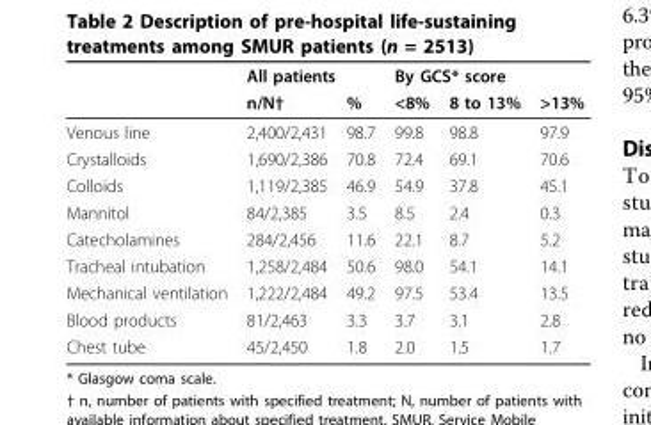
<table><thead><tr><td rowspan="2"></td><td colspan="2">All patients</td><td colspan="3">By GCS* score</td></tr><tr><td>n/N†</td><td>%</td><td>&lt;8%</td><td>8 to 13%</td><td>&gt;13%</td></tr></thead><tbody><tr><td>Venous line</td><td>2,400/2,431</td><td>98.7</td><td>99.8</td><td>98.8</td><td>97.9</td></tr><tr><td>Crystalloids</td><td>1,690/2,386</td><td>70.8</td><td>72.4</td><td>69.1</td><td>70.6</td></tr><tr><td>Colloids</td><td>1,119/2,385</td><td>46.9</td><td>54.9</td><td>37.8</td><td>45.1</td></tr><tr><td>Mannitol</td><td>84/2,385</td><td>3.5</td><td>8.5</td><td>2.4</td><td>0.3</td></tr><tr><td>Catecholamines</td><td>284/2,456</td><td>11.6</td><td>22.1</td><td>8.7</td><td>5.2</td></tr><tr><td>Tracheal intubation</td><td>1,258/2,484</td><td>50.6</td><td>98.0</td><td>54.1</td><td>14.1</td></tr><tr><td>Mechanical ventilation</td><td>1,222/2,484</td><td>49.2</td><td>97.5</td><td>53.4</td><td>13.5</td></tr><tr><td>Blood products</td><td>81/2,463</td><td>3.3</td><td>3.7</td><td>3.1</td><td>2.8</td></tr><tr><td>Chest tube</td><td>45/2,450</td><td>1.8</td><td>2.0</td><td>1.5</td><td>1.7</td></tr></tbody></table>